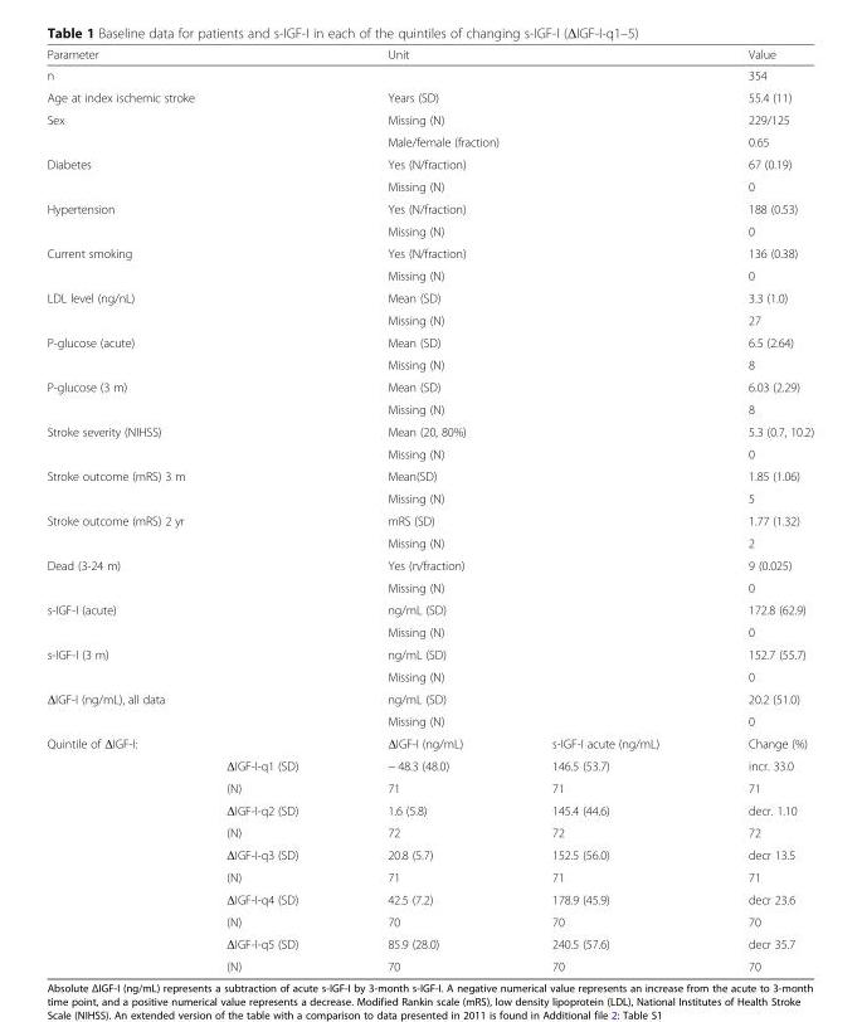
<table><thead><tr><td colspan="2">Parameter</td><td colspan="2">Unit</td><td>Value</td></tr></thead><tbody><tr><td colspan="2">n</td><td colspan="2"></td><td>354</td></tr><tr><td colspan="2">Age at index ischemic stroke</td><td colspan="2">Years (SD)</td><td>55.4 (11)</td></tr><tr><td rowspan="2" colspan="2">Sex</td><td colspan="2">Missing (N)</td><td>229/125</td></tr><tr><td colspan="2">Male/female (fraction)</td><td>0.65</td></tr><tr><td rowspan="2" colspan="2">Diabetes</td><td colspan="2">Yes (N/fraction)</td><td>67 (0.19)</td></tr><tr><td colspan="2">Missing (N)</td><td>0</td></tr><tr><td rowspan="2" colspan="2">Hypertension</td><td colspan="2">Yes (N/fraction)</td><td>188 (0.53)</td></tr><tr><td colspan="2">Missing (N)</td><td>0</td></tr><tr><td rowspan="2" colspan="2">Current smoking</td><td colspan="2">Yes (N/fraction)</td><td>136 (0.38)</td></tr><tr><td colspan="2">Missing (N)</td><td>0</td></tr><tr><td rowspan="2" colspan="2">LDL level (ng/nL)</td><td colspan="2">Mean (SD)</td><td>3.3 (1.0)</td></tr><tr><td colspan="2">Missing (N)</td><td>27</td></tr><tr><td rowspan="2" colspan="2">P-glucose (acute)</td><td colspan="2">Mean (SD)</td><td>6.5 (2.64)</td></tr><tr><td colspan="2">Missing (N)</td><td>8</td></tr><tr><td rowspan="2" colspan="2">P-glucose (3 m)</td><td colspan="2">Mean (SD)</td><td>6.03 (2.29)</td></tr><tr><td colspan="2">Missing (N)</td><td>8</td></tr><tr><td rowspan="2" colspan="2">Stroke severity (NIHSS)</td><td colspan="2">Mean (20, 80%)</td><td>5.3 (0.7, 10.2)</td></tr><tr><td colspan="2">Missing (N)</td><td>0</td></tr><tr><td rowspan="2" colspan="2">Stroke outcome (mRS) 3 m</td><td colspan="2">Mean(SD)</td><td>1.85 (1.06)</td></tr><tr><td colspan="2">Missing (N)</td><td>5</td></tr><tr><td rowspan="2" colspan="2">Stroke outcome (mRS) 2 yr</td><td colspan="2">mRS (SD)</td><td>1.77 (1.32)</td></tr><tr><td colspan="2">Missing (N)</td><td>2</td></tr><tr><td rowspan="2" colspan="2">Dead (3-24 m)</td><td colspan="2">Yes (n/fraction)</td><td>9 (0.025)</td></tr><tr><td colspan="2">Missing (N)</td><td>0</td></tr><tr><td rowspan="2" colspan="2">s-IGF-I (acute)</td><td colspan="2">ng/mL (SD)</td><td>172.8 (62.9)</td></tr><tr><td colspan="2">Missing (N)</td><td>0</td></tr><tr><td rowspan="2" colspan="2">s-IGF-I (3 m)</td><td colspan="2">ng/mL (SD)</td><td>152.7 (55.7)</td></tr><tr><td colspan="2">Missing (N)</td><td>0</td></tr><tr><td rowspan="2" colspan="2">ΔIGF-I (ng/mL), all data</td><td colspan="2">ng/mL (SD)</td><td>20.2 (51.0)</td></tr><tr><td colspan="2">Missing (N)</td><td>0</td></tr><tr><td rowspan="11">Quintile of ΔIGF-I:</td><td></td><td>ΔIGF-I (ng/mL)</td><td>s-IGF-I acute (ng/mL)</td><td>Change (%)</td></tr><tr><td>ΔIGF-I-q1 (SD)</td><td>− 48.3 (48.0)</td><td>146.5 (53.7)</td><td>incr. 33.0</td></tr><tr><td>(N)</td><td>71</td><td>71</td><td>71</td></tr><tr><td>ΔIGF-I-q2 (SD)</td><td>1.6 (5.8)</td><td>145.4 (44.6)</td><td>decr. 1.10</td></tr><tr><td>(N)</td><td>72</td><td>72</td><td>72</td></tr><tr><td>ΔIGF-I-q3 (SD)</td><td>20.8 (5.7)</td><td>152.5 (56.0)</td><td>decr 13.5</td></tr><tr><td>(N)</td><td>71</td><td>71</td><td>71</td></tr><tr><td>ΔIGF-I-q4 (SD)</td><td>42.5 (7.2)</td><td>178.9 (45.9)</td><td>decr 23.6</td></tr><tr><td>(N)</td><td>70</td><td>70</td><td>70</td></tr><tr><td>ΔIGF-I-q5 (SD)</td><td>85.9 (28.0)</td><td>240.5 (57.6)</td><td>decr 35.7</td></tr><tr><td>(N)</td><td>70</td><td>70</td><td>70</td></tr></tbody></table>